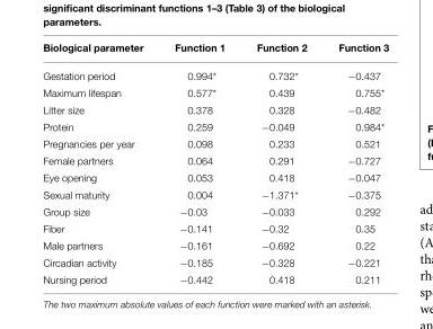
<table><thead><tr><td>Biological parameter</td><td>Function 1</td><td>Function 2</td><td>Function 3</td></tr></thead><tbody><tr><td>Gestation period</td><td>0.994*</td><td>0.732*</td><td>−0.437</td></tr><tr><td>Maximum lifespan</td><td>0.577*</td><td>0.439</td><td>0.755*</td></tr><tr><td>Litter size</td><td>0.378</td><td>0.328</td><td>−0.482</td></tr><tr><td>Protein</td><td>0.259</td><td>−0.049</td><td>0.984*</td></tr><tr><td>Pregnancies per year</td><td>0.098</td><td>0.233</td><td>0.521</td></tr><tr><td>Female partners</td><td>0.064</td><td>0.291</td><td>−0.727</td></tr><tr><td>Eye opening</td><td>0.053</td><td>0.418</td><td>−0.047</td></tr><tr><td>Sexual maturity</td><td>0.004</td><td>−1.371*</td><td>−0.375</td></tr><tr><td>Group size</td><td>−0.03</td><td>−0.033</td><td>0.292</td></tr><tr><td>Fiber</td><td>−0.141</td><td>−0.32</td><td>0.35</td></tr><tr><td>Male partners</td><td>−0.161</td><td>−0.692</td><td>0.22</td></tr><tr><td>Circadian activity</td><td>−0.185</td><td>−0.328</td><td>−0.221</td></tr><tr><td>Nursing period</td><td>−0.442</td><td>0.418</td><td>0.211</td></tr></tbody></table>